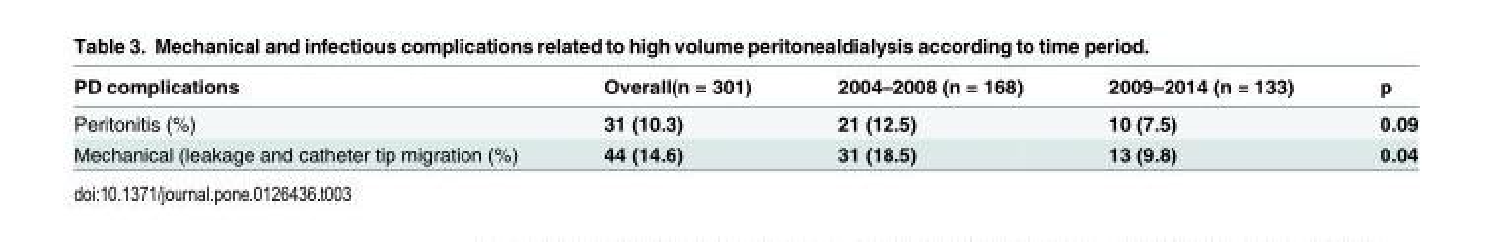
<table><thead><tr><td>PD complications</td><td>Overall(n = 301)</td><td>2004–2008 (n = 168)</td><td>2009–2014 (n = 133)</td><td>p</td></tr></thead><tbody><tr><td>Peritonitis (%)</td><td>31 (10.3)</td><td>21 (12.5)</td><td>10 (7.5)</td><td>0.09</td></tr><tr><td>Mechanical (leakage and catheter tip migration (%)</td><td>44 (14.6)</td><td>31 (18.5)</td><td>13 (9.8)</td><td>0.04</td></tr></tbody></table>